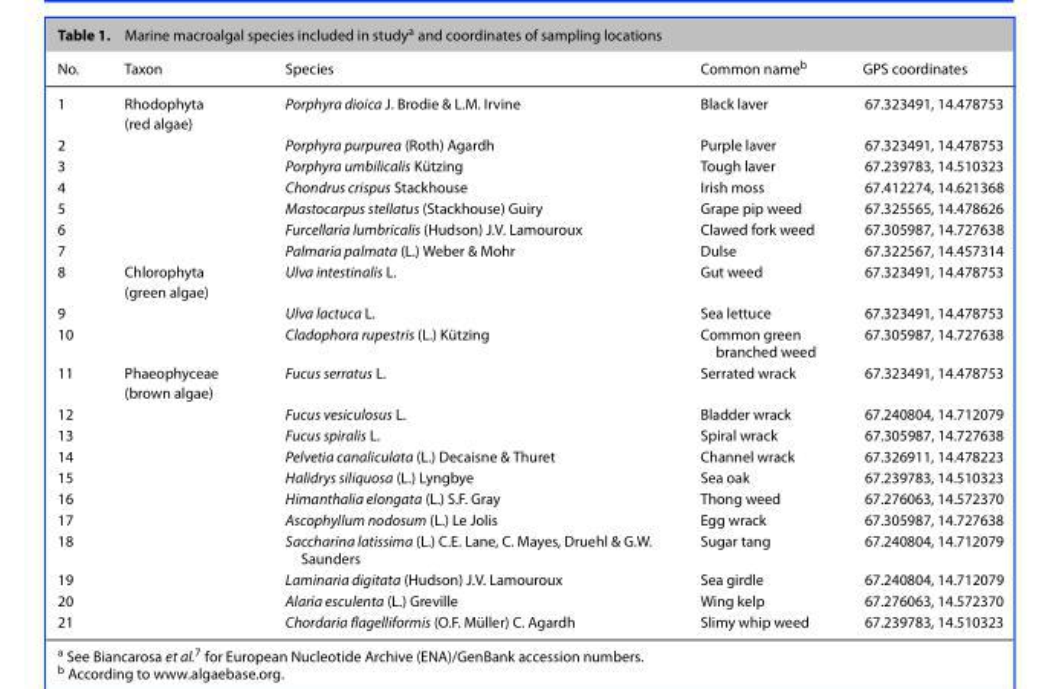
<table><thead><tr><td>No.</td><td>Taxon</td><td>Species</td><td>Common name<sup>b</sup></td><td>GPS coordinates</td></tr></thead><tbody><tr><td>1</td><td rowspan="7">Rhodophyta (red algae)</td><td>Porphyra dioica J. Brodie &amp; L.M. Irvine</td><td>Black laver</td><td>67.323491, 14.478753</td></tr><tr><td>2</td><td>Porphyra purpurea (Roth) Agardh</td><td>Purple laver</td><td>67.323491, 14.478753</td></tr><tr><td>3</td><td>Porphyra umbilicalis Kützing</td><td>Tough laver</td><td>67.239783, 14.510323</td></tr><tr><td>4</td><td>Chondrus crispus Stackhouse</td><td>Irish moss</td><td>67.412274, 14.621368</td></tr><tr><td>5</td><td>Mastocarpus stellatus (Stackhouse) Guiry</td><td>Grape pip weed</td><td>67.325565, 14.478626</td></tr><tr><td>6</td><td>Furcellaria lumbricalis (Hudson) J.V. Lamouroux</td><td>Clawed fork weed</td><td>67.305987, 14.727638</td></tr><tr><td>7</td><td>Palmaria palmata (L.) Weber &amp; Mohr</td><td>Dulse</td><td>67.322567, 14.457314</td></tr><tr><td>8</td><td rowspan="3">Chlorophyta (green algae)</td><td>Ulva intestinalis L.</td><td>Gut weed</td><td>67.323491, 14.478753</td></tr><tr><td>9</td><td>Ulva lactuca L.</td><td>Sea lettuce</td><td>67.323491, 14.478753</td></tr><tr><td>10</td><td>Cladophora rupestris (L.) Kützing</td><td>Common green branched weed</td><td>67.305987, 14.727638</td></tr><tr><td>11</td><td rowspan="11">Phaeophyceae (brown algae)</td><td>Fucus serratus L.</td><td>Serrated wrack</td><td>67.323491, 14.478753</td></tr><tr><td>12</td><td>Fucus vesiculosus L.</td><td>Bladder wrack</td><td>67.240804, 14.712079</td></tr><tr><td>13</td><td>Fucus spiralis L.</td><td>Spiral wrack</td><td>67.305987, 14.727638</td></tr><tr><td>14</td><td>Pelvetia canaliculata (L.) Decaisne &amp; Thuret</td><td>Channel wrack</td><td>67.326911, 14.478223</td></tr><tr><td>15</td><td>Halidrys siliquosa (L.) Lyngbye</td><td>Sea oak</td><td>67.239783, 14.510323</td></tr><tr><td>16</td><td>Himanthalia elongata (L.) S.F. Gray</td><td>Thong weed</td><td>67.276063, 14.572370</td></tr><tr><td>17</td><td>Ascophyllum nodosum (L.) Le Jolis</td><td>Egg wrack</td><td>67.305987, 14.727638</td></tr><tr><td>18</td><td>Saccharina latissima (L.) C.E. Lane, C. Mayes, Druehl &amp; G.W. Saunders</td><td>Sugar tang</td><td>67.240804, 14.712079</td></tr><tr><td>19</td><td>Laminaria digitata (Hudson) J.V. Lamouroux</td><td>Sea girdle</td><td>67.240804, 14.712079</td></tr><tr><td>20</td><td>Alaria esculenta (L.) Greville</td><td>Wing kelp</td><td>67.276063, 14.572370</td></tr><tr><td>21</td><td>Chordaria flagelliformis (O.F. Müller) C. Agardh</td><td>Slimy whip weed</td><td>67.239783, 14.510323</td></tr></tbody></table>